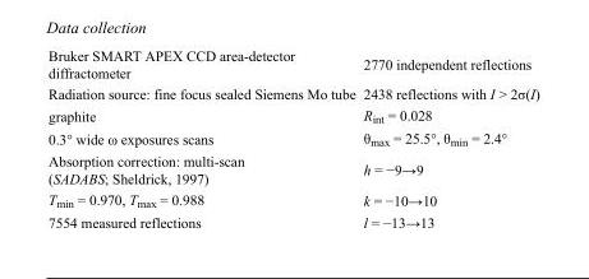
<table><tbody><tr><td>Bruker SMART APEX CCD area-detector diffractometer</td><td>2770 independent reflections</td></tr><tr><td>Radiation source: fine focus sealed Siemens Mo tube</td><td>2438 reflections with I &gt; 2σ(I)</td></tr><tr><td>graphite</td><td>R<sub>int</sub> = 0.028</td></tr><tr><td>0.3° wide ω exposures scans</td><td>θ<sub>max</sub> = 25.5°, θ<sub>min</sub> = 2.4°</td></tr><tr><td>Absorption correction: multi-scan (SADABS; Sheldrick, 1997)</td><td>h = −9→9</td></tr><tr><td>T<sub>min</sub> = 0.970, T<sub>max</sub> = 0.988</td><td>k = −10→10</td></tr><tr><td>7554 measured reflections</td><td>l = −13→13</td></tr></tbody></table>